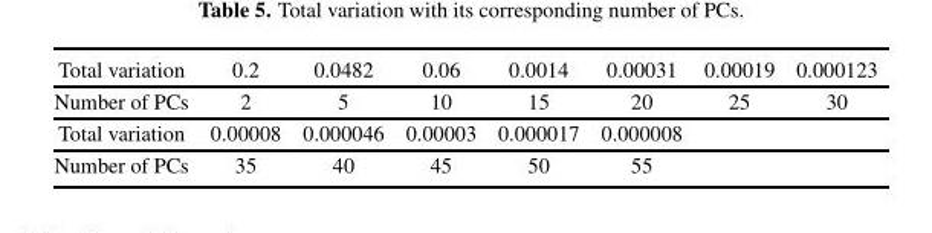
<table><tbody><tr><td>Total variation</td><td>0.2</td><td>0.0482</td><td>0.06</td><td>0.0014</td><td>0.00031</td><td>0.00019</td><td>0.000123</td></tr><tr><td>Number of PCs</td><td>2</td><td>5</td><td>10</td><td>15</td><td>20</td><td>25</td><td>30</td></tr><tr><td>Total variation</td><td>0.00008</td><td>0.000046</td><td>0.00003</td><td>0.000017</td><td>0.000008</td><td></td><td></td></tr><tr><td>Number of PCs</td><td>35</td><td>40</td><td>45</td><td>50</td><td>55</td><td></td><td></td></tr></tbody></table>